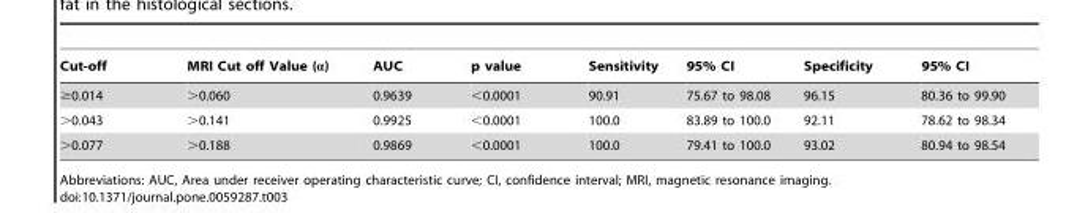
<table><thead><tr><td>Cut-off</td><td>MRI Cut off Value (α)</td><td>AUC</td><td>p value</td><td>Sensitivity</td><td>95% CI</td><td>Specificity</td><td>95% CI</td></tr></thead><tbody><tr><td>≥0.014</td><td>&gt;0.060</td><td>0.9639</td><td>&lt;0.0001</td><td>90.91</td><td>75.67 to 98.08</td><td>96.15</td><td>80.36 to 99.90</td></tr><tr><td>&gt;0.043</td><td>&gt;0.141</td><td>0.9925</td><td>&lt;0.0001</td><td>100.0</td><td>83.89 to 100.0</td><td>92.11</td><td>78.62 to 98.34</td></tr><tr><td>&gt;0.077</td><td>&gt;0.188</td><td>0.9869</td><td>&lt;0.0001</td><td>100.0</td><td>79.41 to 100.0</td><td>93.02</td><td>80.94 to 98.54</td></tr></tbody></table>